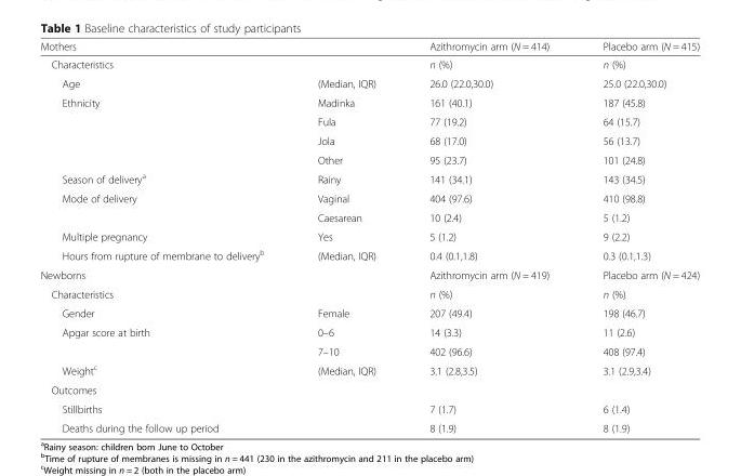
<table><thead><tr><td>Mothers</td><td></td><td>Azithromycin arm (N = 414)</td><td>Placebo arm (N = 415)</td></tr></thead><tbody><tr><td>Characteristics</td><td></td><td>n (%)</td><td>n (%)</td></tr><tr><td>Age</td><td>(Median, IQR)</td><td>26.0 (22.0,30.0)</td><td>25.0 (22.0,30.0)</td></tr><tr><td rowspan="4">Ethnicity</td><td>Madinka</td><td>161 (40.1)</td><td>187 (45.8)</td></tr><tr><td>Fula</td><td>77 (19.2)</td><td>64 (15.7)</td></tr><tr><td>Jola</td><td>68 (17.0)</td><td>56 (13.7)</td></tr><tr><td>Other</td><td>95 (23.7)</td><td>101 (24.8)</td></tr><tr><td>Season of delivery<sup>a</sup></td><td>Rainy</td><td>141 (34.1)</td><td>143 (34.5)</td></tr><tr><td rowspan="2">Mode of delivery</td><td>Vaginal</td><td>404 (97.6)</td><td>410 (98.8)</td></tr><tr><td>Caesarean</td><td>10 (2.4)</td><td>5 (1.2)</td></tr><tr><td>Multiple pregnancy</td><td>Yes</td><td>5 (1.2)</td><td>9 (2.2)</td></tr><tr><td>Hours from rupture of membrane to delivery<sup>b</sup></td><td>(Median, IQR)</td><td>0.4 (0.1,1.8)</td><td>0.3 (0.1,1.3)</td></tr><tr><td>Newborns</td><td></td><td>Azithromycin arm (N = 419)</td><td>Placebo arm (N = 424)</td></tr><tr><td>Characteristics</td><td></td><td>n (%)</td><td>n (%)</td></tr><tr><td>Gender</td><td>Female</td><td>207 (49.4)</td><td>198 (46.7)</td></tr><tr><td rowspan="2">Apgar score at birth</td><td>0–6</td><td>14 (3.3)</td><td>11 (2.6)</td></tr><tr><td>7–10</td><td>402 (96.6)</td><td>408 (97.4)</td></tr><tr><td>Weight<sup>c</sup></td><td>(Median, IQR)</td><td>3.1 (2.8,3.5)</td><td>3.1 (2.9,3.4)</td></tr><tr><td colspan="4">Outcomes</td></tr><tr><td>Stillbirths</td><td></td><td>7 (1.7)</td><td>6 (1.4)</td></tr><tr><td>Deaths during the follow up period</td><td></td><td>8 (1.9)</td><td>8 (1.9)</td></tr></tbody></table>